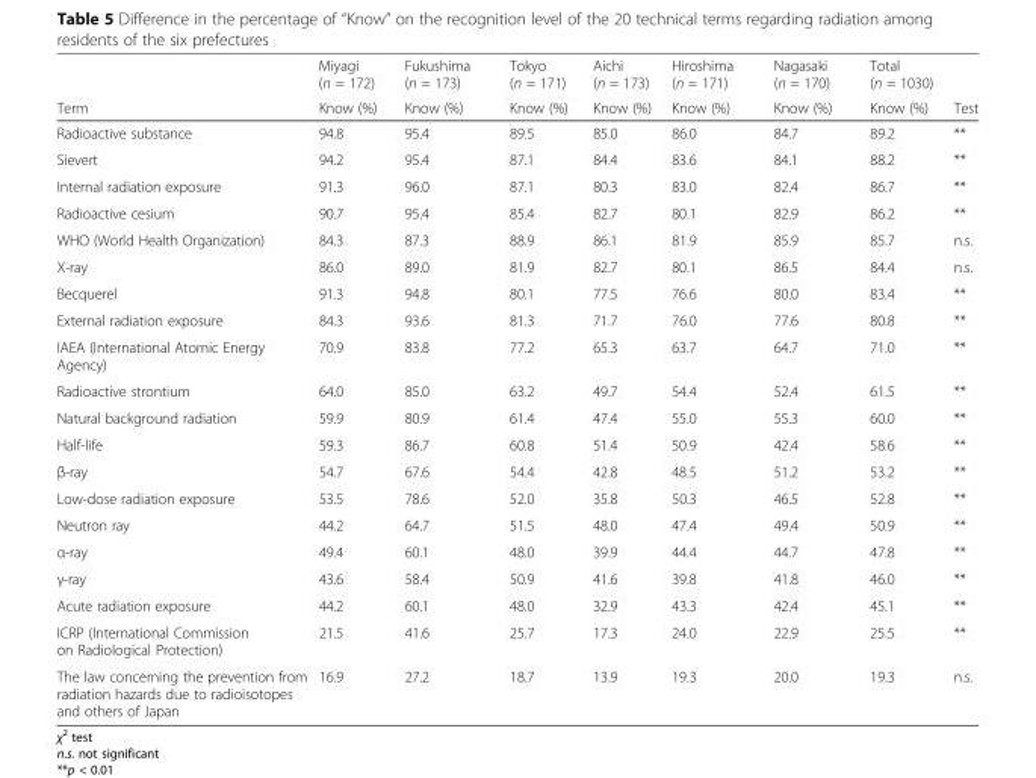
<table><thead><tr><td rowspan="2">Term</td><td rowspan="2">Miyagi (n = 172) Know (%)</td><td rowspan="2">Fukushima (n = 173) Know (%)</td><td rowspan="2">Tokyo (n = 171) Know (%)</td><td rowspan="2">Aichi (n = 173) Know (%)</td><td rowspan="2">Hiroshima (n = 171) Know (%)</td><td rowspan="2">Nagasaki (n = 170) Know (%)</td><td rowspan="2">Total (n = 1030) Know (%)</td><td rowspan="2">Test</td></tr><tr></tr></thead><tbody><tr><td>Radioactive substance</td><td>94.8</td><td>95.4</td><td>89.5</td><td>85.0</td><td>86.0</td><td>84.7</td><td>89.2</td><td>**</td></tr><tr><td>Sievert</td><td>94.2</td><td>95.4</td><td>87.1</td><td>84.4</td><td>83.6</td><td>84.1</td><td>88.2</td><td>**</td></tr><tr><td>Internal radiation exposure</td><td>91.3</td><td>96.0</td><td>87.1</td><td>80.3</td><td>83.0</td><td>82.4</td><td>86.7</td><td>**</td></tr><tr><td>Radioactive cesium</td><td>90.7</td><td>95.4</td><td>85.4</td><td>82.7</td><td>80.1</td><td>82.9</td><td>86.2</td><td>**</td></tr><tr><td>WHO (World Health Organization)</td><td>84.3</td><td>87.3</td><td>88.9</td><td>86.1</td><td>81.9</td><td>85.9</td><td>85.7</td><td>n.s.</td></tr><tr><td>X-ray</td><td>86.0</td><td>89.0</td><td>81.9</td><td>82.7</td><td>80.1</td><td>86.5</td><td>84.4</td><td>n.s.</td></tr><tr><td>Becquerel</td><td>91.3</td><td>94.8</td><td>80.1</td><td>77.5</td><td>76.6</td><td>80.0</td><td>83.4</td><td>**</td></tr><tr><td>External radiation exposure</td><td>84.3</td><td>93.6</td><td>81.3</td><td>71.7</td><td>76.0</td><td>77.6</td><td>80.8</td><td>**</td></tr><tr><td>IAEA (International Atomic Energy Agency)</td><td>70.9</td><td>83.8</td><td>77.2</td><td>65.3</td><td>63.7</td><td>64.7</td><td>71.0</td><td>**</td></tr><tr><td>Radioactive strontium</td><td>64.0</td><td>85.0</td><td>63.2</td><td>49.7</td><td>54.4</td><td>52.4</td><td>61.5</td><td>**</td></tr><tr><td>Natural background radiation</td><td>59.9</td><td>80.9</td><td>61.4</td><td>47.4</td><td>55.0</td><td>55.3</td><td>60.0</td><td>**</td></tr><tr><td>Half-life</td><td>59.3</td><td>86.7</td><td>60.8</td><td>51.4</td><td>50.9</td><td>42.4</td><td>58.6</td><td>**</td></tr><tr><td>β-ray</td><td>54.7</td><td>67.6</td><td>54.4</td><td>42.8</td><td>48.5</td><td>51.2</td><td>53.2</td><td>**</td></tr><tr><td>Low-dose radiation exposure</td><td>53.5</td><td>78.6</td><td>52.0</td><td>35.8</td><td>50.3</td><td>46.5</td><td>52.8</td><td>**</td></tr><tr><td>Neutron ray</td><td>44.2</td><td>64.7</td><td>51.5</td><td>48.0</td><td>47.4</td><td>49.4</td><td>50.9</td><td>**</td></tr><tr><td>α-ray</td><td>49.4</td><td>60.1</td><td>48.0</td><td>39.9</td><td>44.4</td><td>44.7</td><td>47.8</td><td>**</td></tr><tr><td>γ-ray</td><td>43.6</td><td>58.4</td><td>50.9</td><td>41.6</td><td>39.8</td><td>41.8</td><td>46.0</td><td>**</td></tr><tr><td>Acute radiation exposure</td><td>44.2</td><td>60.1</td><td>48.0</td><td>32.9</td><td>43.3</td><td>42.4</td><td>45.1</td><td>**</td></tr><tr><td>ICRP (International Commission on Radiological Protection)</td><td>21.5</td><td>41.6</td><td>25.7</td><td>17.3</td><td>24.0</td><td>22.9</td><td>25.5</td><td>**</td></tr><tr><td>The law concerning the prevention from radiation hazards due to radioisotopes and others of Japan</td><td>16.9</td><td>27.2</td><td>18.7</td><td>13.9</td><td>19.3</td><td>20.0</td><td>19.3</td><td>n.s.</td></tr></tbody></table>